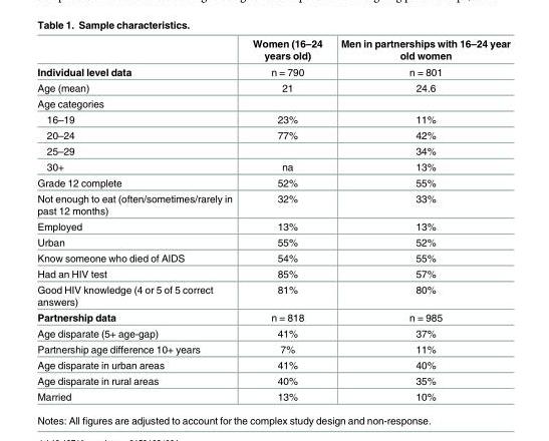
<table><thead><tr><td></td><td>Women (16–24 years old)</td><td>Men in partnerships with 16–24 year old women</td></tr></thead><tbody><tr><td>Individual level data</td><td>n = 790</td><td>n = 801</td></tr><tr><td>Age (mean)</td><td>21</td><td>24.6</td></tr><tr><td colspan="3">Age categories</td></tr><tr><td>16–19</td><td>23%</td><td>11%</td></tr><tr><td>20–24</td><td>77%</td><td>42%</td></tr><tr><td>25–29</td><td></td><td>34%</td></tr><tr><td>30+</td><td>na</td><td>13%</td></tr><tr><td>Grade 12 complete</td><td>52%</td><td>55%</td></tr><tr><td>Not enough to eat (often/sometimes/rarely in past 12 months)</td><td>32%</td><td>33%</td></tr><tr><td>Employed</td><td>13%</td><td>13%</td></tr><tr><td>Urban</td><td>55%</td><td>52%</td></tr><tr><td>Know someone who died of AIDS</td><td>54%</td><td>55%</td></tr><tr><td>Had an HIV test</td><td>85%</td><td>57%</td></tr><tr><td>Good HIV knowledge (4 or 5 of 5 correct answers)</td><td>81%</td><td>80%</td></tr><tr><td>Partnership data</td><td>n = 818</td><td>n = 985</td></tr><tr><td>Age disparate (5+ age-gap)</td><td>41%</td><td>37%</td></tr><tr><td>Partnership age difference 10+ years</td><td>7%</td><td>11%</td></tr><tr><td>Age disparate in urban areas</td><td>41%</td><td>40%</td></tr><tr><td>Age disparate in rural areas</td><td>40%</td><td>35%</td></tr><tr><td>Married</td><td>13%</td><td>10%</td></tr></tbody></table>